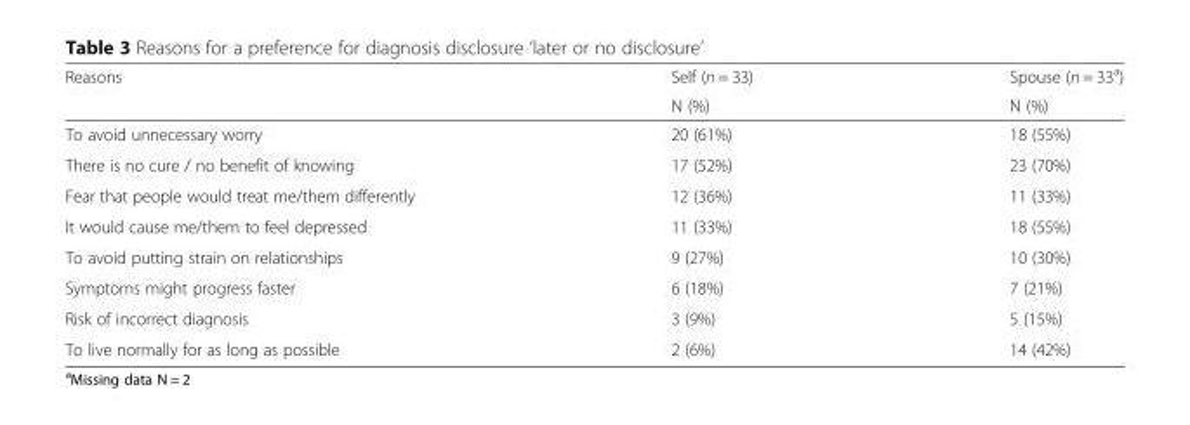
<table><thead><tr><td rowspan="2">Reasons</td><td rowspan="2">Self (n = 33) N (%)</td><td rowspan="2">Spouse (n = 33<sup>a</sup>) N (%)</td></tr><tr></tr></thead><tbody><tr><td>To avoid unnecessary worry</td><td>20 (61%)</td><td>18 (55%)</td></tr><tr><td>There is no cure / no benefit of knowing</td><td>17 (52%)</td><td>23 (70%)</td></tr><tr><td>Fear that people would treat me/them differently</td><td>12 (36%)</td><td>11 (33%)</td></tr><tr><td>It would cause me/them to feel depressed</td><td>11 (33%)</td><td>18 (55%)</td></tr><tr><td>To avoid putting strain on relationships</td><td>9 (27%)</td><td>10 (30%)</td></tr><tr><td>Symptoms might progress faster</td><td>6 (18%)</td><td>7 (21%)</td></tr><tr><td>Risk of incorrect diagnosis</td><td>3 (9%)</td><td>5 (15%)</td></tr><tr><td>To live normally for as long as possible</td><td>2 (6%)</td><td>14 (42%)</td></tr></tbody></table>